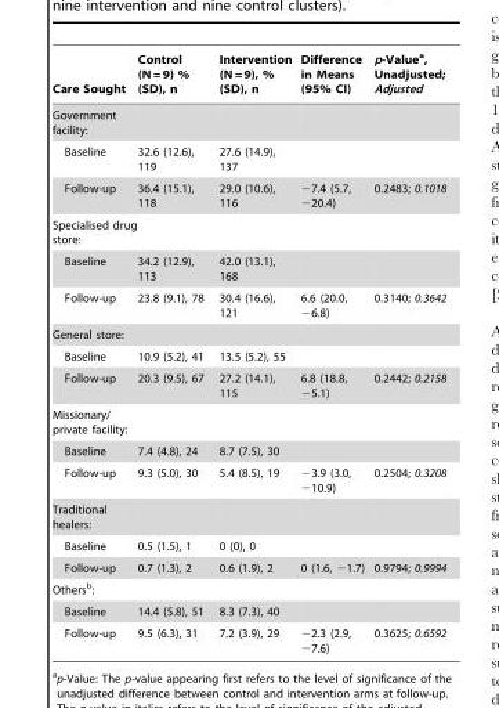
<table><thead><tr><td>Care Sought</td><td>Control (N = 9) % (SD), n</td><td>Intervention (N = 9), % (SD), n</td><td>Difference in Means (95% CI)</td><td>p-Value<sup>a</sup>, Unadjusted; Adjusted</td></tr></thead><tbody><tr><td colspan="5">Government facility:</td></tr><tr><td>Baseline</td><td>32.6 (12.6), 119</td><td>27.6 (14.9), 137</td><td></td><td></td></tr><tr><td>Follow-up</td><td>36.4 (15.1), 118</td><td>29.0 (10.6), 116</td><td>−7.4 (5.7, −20.4)</td><td>0.2483; 0.1018</td></tr><tr><td colspan="5">Specialised drug store:</td></tr><tr><td>Baseline</td><td>34.2 (12.9), 113</td><td>42.0 (13.1), 168</td><td></td><td></td></tr><tr><td>Follow-up</td><td>23.8 (9.1), 78</td><td>30.4 (16.6), 121</td><td>6.6 (20.0, −6.8)</td><td>0.3140; 0.3642</td></tr><tr><td colspan="5">General store:</td></tr><tr><td>Baseline</td><td>10.9 (5.2), 41</td><td>13.5 (5.2), 55</td><td></td><td></td></tr><tr><td>Follow-up</td><td>20.3 (9.5), 67</td><td>27.2 (14.1), 115</td><td>6.8 (18.8, −5.1)</td><td>0.2442; 0.2158</td></tr><tr><td colspan="5">Missionary/ private facility:</td></tr><tr><td>Baseline</td><td>7.4 (4.8), 24</td><td>8.7 (7.5), 30</td><td></td><td></td></tr><tr><td>Follow-up</td><td>9.3 (5.0), 30</td><td>5.4 (8.5), 19</td><td>−3.9 (3.0, −10.9)</td><td>0.2504; 0.3208</td></tr><tr><td colspan="5">Traditional healers:</td></tr><tr><td>Baseline</td><td>0.5 (1.5), 1</td><td>0 (0), 0</td><td></td><td></td></tr><tr><td>Follow-up</td><td>0.7 (1.3), 2</td><td>0.6 (1.9), 2</td><td>0 (1.6, −1.7)</td><td>0.9794; 0.9994</td></tr><tr><td colspan="5">Others<sup>b</sup>:</td></tr><tr><td>Baseline</td><td>14.4 (5.8), 51</td><td>8.3 (7.3), 40</td><td></td><td></td></tr><tr><td>Follow-up</td><td>9.5 (6.3), 31</td><td>7.2 (3.9), 29</td><td>−2.3 (2.9, −7.6)</td><td>0.3625; 0.6592</td></tr></tbody></table>